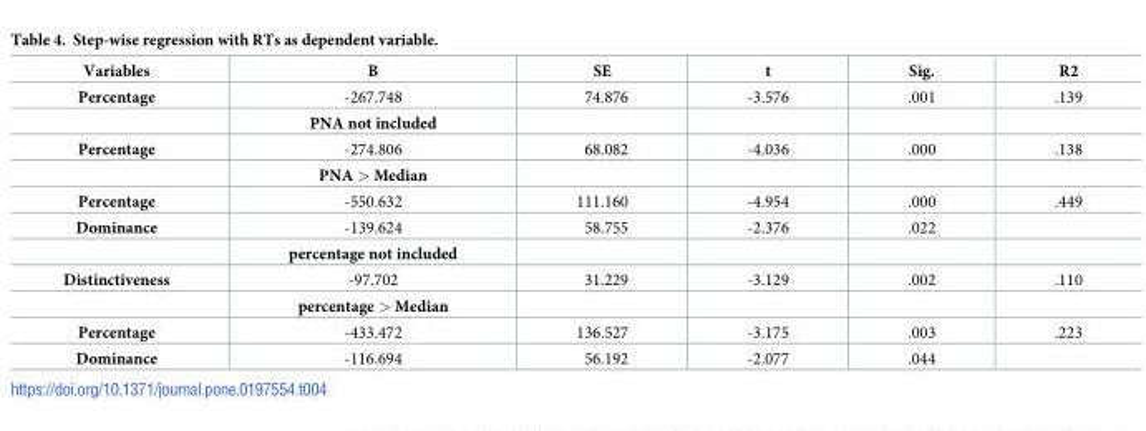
<table><thead><tr><td>Variables</td><td>B</td><td>SE</td><td>t</td><td>Sig.</td><td>R2</td></tr></thead><tbody><tr><td rowspan="2">Percentage</td><td>-267.748</td><td>74.876</td><td>-3.576</td><td>.001</td><td>.139</td></tr><tr><td>PNA not included</td><td></td><td></td><td></td><td></td></tr><tr><td rowspan="2">Percentage</td><td>-274.806</td><td>68.082</td><td>-4.036</td><td>.000</td><td>.138</td></tr><tr><td>PNA &gt; Median</td><td></td><td></td><td></td><td></td></tr><tr><td>Percentage</td><td>-550.632</td><td>111.160</td><td>-4.954</td><td>.000</td><td>.449</td></tr><tr><td rowspan="2">Dominance</td><td>-139.624</td><td>58.755</td><td>-2.376</td><td>.022</td><td></td></tr><tr><td>percentage not included</td><td></td><td></td><td></td><td></td></tr><tr><td rowspan="2">Distinctiveness</td><td>-97.702</td><td>31.229</td><td>-3.129</td><td>.002</td><td>.110</td></tr><tr><td>percentage &gt; Median</td><td></td><td></td><td></td><td></td></tr><tr><td>Percentage</td><td>-433.472</td><td>136.527</td><td>-3.175</td><td>.003</td><td>.223</td></tr><tr><td>Dominance</td><td>-116.694</td><td>56.192</td><td>-2.077</td><td>.044</td><td></td></tr></tbody></table>